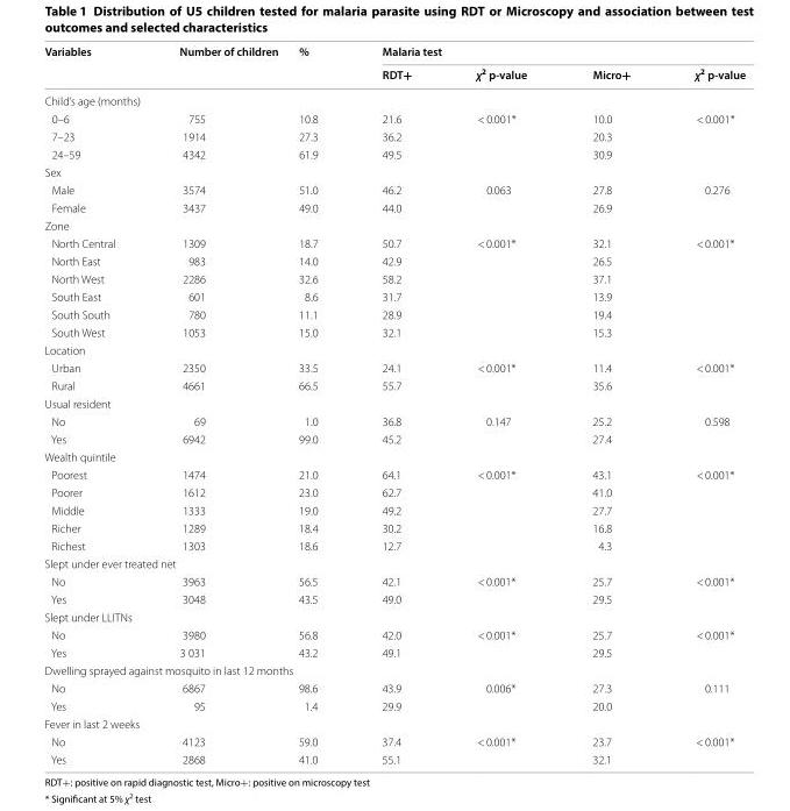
<table><thead><tr><td rowspan="2">Variables</td><td rowspan="2">Number of children</td><td rowspan="2">%</td><td colspan="4">Malaria test</td></tr><tr><td>RDT+</td><td>χ<sup>2</sup> p-value</td><td>Micro+</td><td>χ<sup>2</sup> p-value</td></tr></thead><tbody><tr><td colspan="7">Child’s age (months)</td></tr><tr><td>0–6</td><td>755</td><td>10.8</td><td>21.6</td><td>&lt; 0.001*</td><td>10.0</td><td>&lt; 0.001*</td></tr><tr><td>7–23</td><td>1914</td><td>27.3</td><td>36.2</td><td></td><td>20.3</td><td></td></tr><tr><td>24–59</td><td>4342</td><td>61.9</td><td>49.5</td><td></td><td>30.9</td><td></td></tr><tr><td colspan="7">Sex</td></tr><tr><td>Male</td><td>3574</td><td>51.0</td><td>46.2</td><td>0.063</td><td>27.8</td><td>0.276</td></tr><tr><td>Female</td><td>3437</td><td>49.0</td><td>44.0</td><td></td><td>26.9</td><td></td></tr><tr><td colspan="7">Zone</td></tr><tr><td>North Central</td><td>1309</td><td>18.7</td><td>50.7</td><td>&lt; 0.001*</td><td>32.1</td><td>&lt; 0.001*</td></tr><tr><td>North East</td><td>983</td><td>14.0</td><td>42.9</td><td></td><td>26.5</td><td></td></tr><tr><td>North West</td><td>2286</td><td>32.6</td><td>58.2</td><td></td><td>37.1</td><td></td></tr><tr><td>South East</td><td>601</td><td>8.6</td><td>31.7</td><td></td><td>13.9</td><td></td></tr><tr><td>South South</td><td>780</td><td>11.1</td><td>28.9</td><td></td><td>19.4</td><td></td></tr><tr><td>South West</td><td>1053</td><td>15.0</td><td>32.1</td><td></td><td>15.3</td><td></td></tr><tr><td colspan="7">Location</td></tr><tr><td>Urban</td><td>2350</td><td>33.5</td><td>24.1</td><td>&lt; 0.001*</td><td>11.4</td><td>&lt; 0.001*</td></tr><tr><td>Rural</td><td>4661</td><td>66.5</td><td>55.7</td><td></td><td>35.6</td><td></td></tr><tr><td colspan="7">Usual resident</td></tr><tr><td>No</td><td>69</td><td>1.0</td><td>36.8</td><td>0.147</td><td>25.2</td><td>0.598</td></tr><tr><td>Yes</td><td>6942</td><td>99.0</td><td>45.2</td><td></td><td>27.4</td><td></td></tr><tr><td colspan="7">Wealth quintile</td></tr><tr><td>Poorest</td><td>1474</td><td>21.0</td><td>64.1</td><td>&lt; 0.001*</td><td>43.1</td><td>&lt; 0.001*</td></tr><tr><td>Poorer</td><td>1612</td><td>23.0</td><td>62.7</td><td></td><td>41.0</td><td></td></tr><tr><td>Middle</td><td>1333</td><td>19.0</td><td>49.2</td><td></td><td>27.7</td><td></td></tr><tr><td>Richer</td><td>1289</td><td>18.4</td><td>30.2</td><td></td><td>16.8</td><td></td></tr><tr><td>Richest</td><td>1303</td><td>18.6</td><td>12.7</td><td></td><td>4.3</td><td></td></tr><tr><td colspan="7">Slept under ever treated net</td></tr><tr><td>No</td><td>3963</td><td>56.5</td><td>42.1</td><td>&lt; 0.001*</td><td>25.7</td><td>&lt; 0.001*</td></tr><tr><td>Yes</td><td>3048</td><td>43.5</td><td>49.0</td><td></td><td>29.5</td><td></td></tr><tr><td colspan="7">Slept under LLITNs</td></tr><tr><td>No</td><td>3980</td><td>56.8</td><td>42.0</td><td>&lt; 0.001*</td><td>25.7</td><td>&lt; 0.001*</td></tr><tr><td>Yes</td><td>3 031</td><td>43.2</td><td>49.1</td><td></td><td>29.5</td><td></td></tr><tr><td colspan="7">Dwelling sprayed against mosquito in last 12 months</td></tr><tr><td>No</td><td>6867</td><td>98.6</td><td>43.9</td><td>0.006*</td><td>27.3</td><td>0.111</td></tr><tr><td>Yes</td><td>95</td><td>1.4</td><td>29.9</td><td></td><td>20.0</td><td></td></tr><tr><td colspan="7">Fever in last 2 weeks</td></tr><tr><td>No</td><td>4123</td><td>59.0</td><td>37.4</td><td>&lt; 0.001*</td><td>23.7</td><td>&lt; 0.001*</td></tr><tr><td>Yes</td><td>2868</td><td>41.0</td><td>55.1</td><td></td><td>32.1</td><td></td></tr></tbody></table>